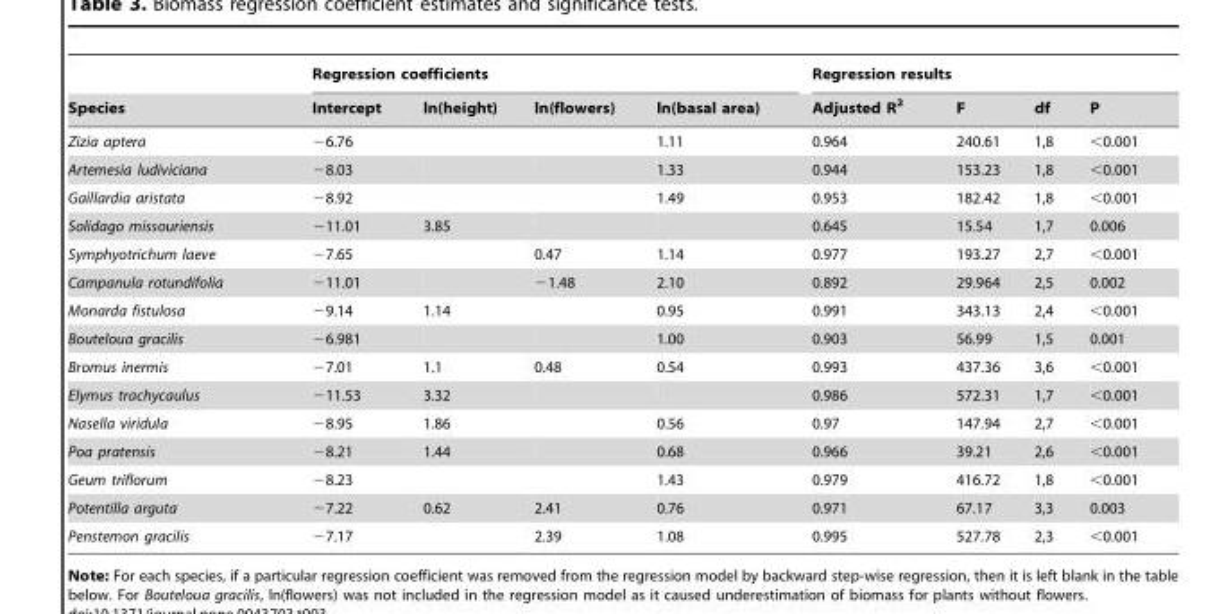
<table><thead><tr><td rowspan="2">Species</td><td colspan="4">Regression coefficients</td><td colspan="4">Regression results</td></tr><tr><td>Intercept</td><td>ln(height)</td><td>ln(flowers)</td><td>ln(basal area)</td><td>Adjusted R<sup>2</sup></td><td>F</td><td>df</td><td>P</td></tr></thead><tbody><tr><td>Zizia aptera</td><td>−6.76</td><td></td><td></td><td>1.11</td><td>0.964</td><td>240.61</td><td>1,8</td><td>&lt;0.001</td></tr><tr><td>Artemesia ludiviciana</td><td>−8.03</td><td></td><td></td><td>1.33</td><td>0.944</td><td>153.23</td><td>1,8</td><td>&lt;0.001</td></tr><tr><td>Gaillardia aristata</td><td>−8.92</td><td></td><td></td><td>1.49</td><td>0.953</td><td>182.42</td><td>1,8</td><td>&lt;0.001</td></tr><tr><td>Solidago missouriensis</td><td>−11.01</td><td>3.85</td><td></td><td></td><td>0.645</td><td>15.54</td><td>1,7</td><td>0.006</td></tr><tr><td>Symphyotrichum laeve</td><td>−7.65</td><td></td><td>0.47</td><td>1.14</td><td>0.977</td><td>193.27</td><td>2,7</td><td>&lt;0.001</td></tr><tr><td>Campanula rotundifolia</td><td>−11.01</td><td></td><td>−1.48</td><td>2.10</td><td>0.892</td><td>29.964</td><td>2,5</td><td>0.002</td></tr><tr><td>Monarda fistulosa</td><td>−9.14</td><td>1.14</td><td></td><td>0.95</td><td>0.991</td><td>343.13</td><td>2,4</td><td>&lt;0.001</td></tr><tr><td>Bouteloua gracilis</td><td>−6.981</td><td></td><td></td><td>1.00</td><td>0.903</td><td>56.99</td><td>1,5</td><td>0.001</td></tr><tr><td>Bromus inermis</td><td>−7.01</td><td>1.1</td><td>0.48</td><td>0.54</td><td>0.993</td><td>437.36</td><td>3,6</td><td>&lt;0.001</td></tr><tr><td>Elymus trachycaulus</td><td>−11.53</td><td>3.32</td><td></td><td></td><td>0.986</td><td>572.31</td><td>1,7</td><td>&lt;0.001</td></tr><tr><td>Nasella viridula</td><td>−8.95</td><td>1.86</td><td></td><td>0.56</td><td>0.97</td><td>147.94</td><td>2,7</td><td>&lt;0.001</td></tr><tr><td>Poa pratensis</td><td>−8.21</td><td>1.44</td><td></td><td>0.68</td><td>0.966</td><td>39.21</td><td>2,6</td><td>&lt;0.001</td></tr><tr><td>Geum triflorum</td><td>−8.23</td><td></td><td></td><td>1.43</td><td>0.979</td><td>416.72</td><td>1,8</td><td>&lt;0.001</td></tr><tr><td>Potentilla arguta</td><td>−7.22</td><td>0.62</td><td>2.41</td><td>0.76</td><td>0.971</td><td>67.17</td><td>3,3</td><td>0.003</td></tr><tr><td>Penstemon gracilis</td><td>−7.17</td><td></td><td>2.39</td><td>1.08</td><td>0.995</td><td>527.78</td><td>2,3</td><td>&lt;0.001</td></tr></tbody></table>